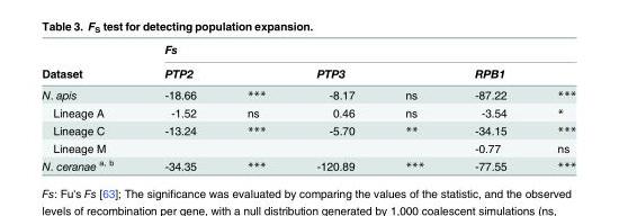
<table><thead><tr><td rowspan="3">Dataset N. apis</td><td colspan="6">Fs</td></tr><tr><td colspan="2">PTP2</td><td colspan="2">PTP3</td><td colspan="2">RPB1</td></tr><tr><td>-18.66</td><td>***</td><td>-8.17</td><td>ns</td><td>-87.22</td><td>***</td></tr></thead><tbody><tr><td>Lineage A</td><td>-1.52</td><td>ns</td><td>0.46</td><td>ns</td><td>-3.54</td><td>*</td></tr><tr><td>Lineage C</td><td>-13.24</td><td>***</td><td>-5.70</td><td>**</td><td>-34.15</td><td>***</td></tr><tr><td>Lineage M</td><td></td><td></td><td></td><td></td><td>-0.77</td><td>ns</td></tr><tr><td>N. ceranae <sup>a, b</sup></td><td>-34.35</td><td>***</td><td>-120.89</td><td>***</td><td>-77.55</td><td>***</td></tr></tbody></table>